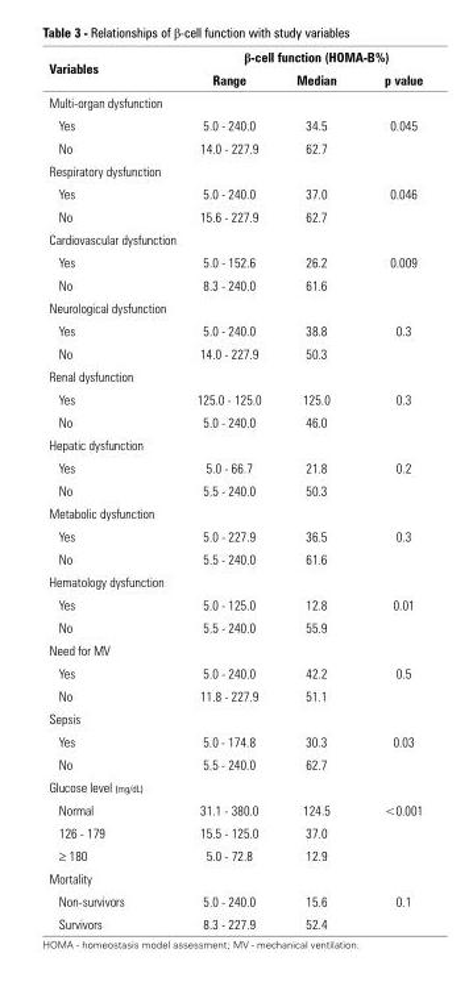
<table><thead><tr><td rowspan="2">Variables</td><td colspan="3">β-cell function (HOMA-B%)</td></tr><tr><td>Range</td><td>Median</td><td>p value</td></tr></thead><tbody><tr><td colspan="4">Multi-organ dysfunction</td></tr><tr><td>Yes</td><td>5.0 - 240.0</td><td>34.5</td><td>0.045</td></tr><tr><td>No</td><td>14.0 - 227.9</td><td>62.7</td><td></td></tr><tr><td colspan="4">Respiratory dysfunction</td></tr><tr><td>Yes</td><td>5.0 - 240.0</td><td>37.0</td><td>0.046</td></tr><tr><td>No</td><td>15.6 - 227.9</td><td>62.7</td><td></td></tr><tr><td colspan="4">Cardiovascular dysfunction</td></tr><tr><td>Yes</td><td>5.0 - 152.6</td><td>26.2</td><td>0.009</td></tr><tr><td>No</td><td>8.3 - 240.0</td><td>61.6</td><td></td></tr><tr><td colspan="4">Neurological dysfunction</td></tr><tr><td>Yes</td><td>5.0 - 240.0</td><td>38.8</td><td>0.3</td></tr><tr><td>No</td><td>14.0 - 227.9</td><td>50.3</td><td></td></tr><tr><td colspan="4">Renal dysfunction</td></tr><tr><td>Yes</td><td>125.0 - 125.0</td><td>125.0</td><td>0.3</td></tr><tr><td>No</td><td>5.0 - 240.0</td><td>46.0</td><td></td></tr><tr><td colspan="4">Hepatic dysfunction</td></tr><tr><td>Yes</td><td>5.0 - 66.7</td><td>21.8</td><td>0.2</td></tr><tr><td>No</td><td>5.5 - 240.0</td><td>50.3</td><td></td></tr><tr><td colspan="4">Metabolic dysfunction</td></tr><tr><td>Yes</td><td>5.0 - 227.9</td><td>36.5</td><td>0.3</td></tr><tr><td>No</td><td>5.5 - 240.0</td><td>61.6</td><td></td></tr><tr><td colspan="4">Hematology dysfunction</td></tr><tr><td>Yes</td><td>5.0 - 125.0</td><td>12.8</td><td>0.01</td></tr><tr><td>No</td><td>5.5 - 240.0</td><td>55.9</td><td></td></tr><tr><td colspan="4">Need for MV</td></tr><tr><td>Yes</td><td>5.0 - 240.0</td><td>42.2</td><td>0.5</td></tr><tr><td>No</td><td>11.8 - 227.9</td><td>51.1</td><td></td></tr><tr><td colspan="4">Sepsis</td></tr><tr><td>Yes</td><td>5.0 - 174.8</td><td>30.3</td><td>0.03</td></tr><tr><td>No</td><td>5.5 - 240.0</td><td>62.7</td><td></td></tr><tr><td colspan="4">Glucose level (mg/dL)</td></tr><tr><td>Normal</td><td>31.1 - 380.0</td><td>124.5</td><td>&lt;0.001</td></tr><tr><td>126 - 179</td><td>15.5 - 125.0</td><td>37.0</td><td></td></tr><tr><td>≥ 180</td><td>5.0 - 72.8</td><td>12.9</td><td></td></tr><tr><td colspan="4">Mortality</td></tr><tr><td>Non-survivors</td><td>5.0 - 240.0</td><td>15.6</td><td>0.1</td></tr><tr><td>Survivors</td><td>8.3 - 227.9</td><td>52.4</td><td></td></tr></tbody></table>